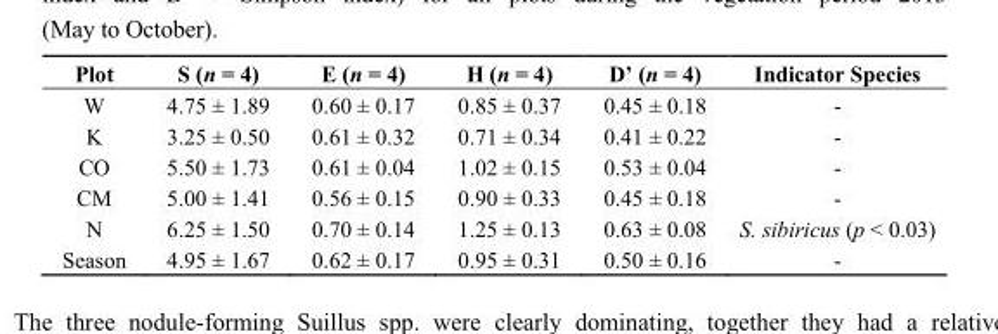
<table><thead><tr><td>Plot</td><td>S (n = 4)</td><td>E (n = 4)</td><td>H (n = 4)</td><td>D’ (n = 4)</td><td>Indicator Species</td></tr></thead><tbody><tr><td>W</td><td>4.75 ± 1.89</td><td>0.60 ± 0.17</td><td>0.85 ± 0.37</td><td>0.45 ± 0.18</td><td>-</td></tr><tr><td>K</td><td>3.25 ± 0.50</td><td>0.61 ± 0.32</td><td>0.71 ± 0.34</td><td>0.41 ± 0.22</td><td>-</td></tr><tr><td>CO</td><td>5.50 ± 1.73</td><td>0.61 ± 0.04</td><td>1.02 ± 0.15</td><td>0.53 ± 0.04</td><td>-</td></tr><tr><td>CM</td><td>5.00 ± 1.41</td><td>0.56 ± 0.15</td><td>0.90 ± 0.33</td><td>0.45 ± 0.18</td><td>-</td></tr><tr><td>N</td><td>6.25 ± 1.50</td><td>0.70 ± 0.14</td><td>1.25 ± 0.13</td><td>0.63 ± 0.08</td><td>S. sibiricus (p &lt; 0.03)</td></tr><tr><td>Season</td><td>4.95 ± 1.67</td><td>0.62 ± 0.17</td><td>0.95 ± 0.31</td><td>0.50 ± 0.16</td><td>-</td></tr></tbody></table>